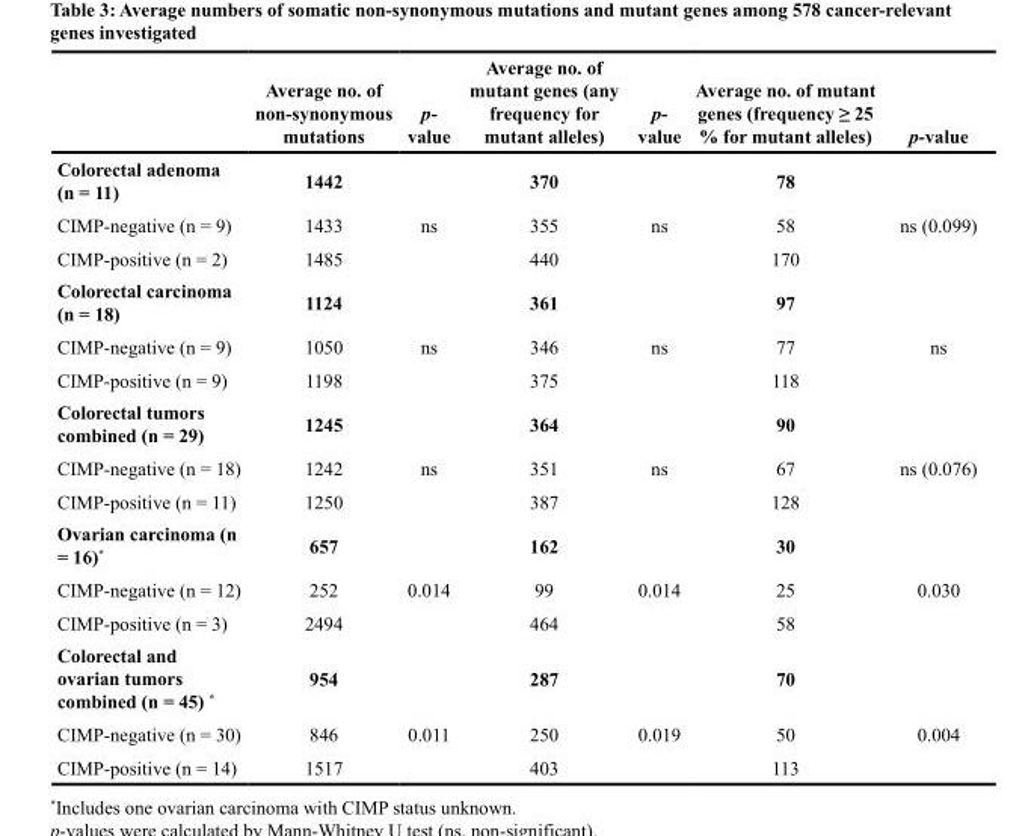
<table><thead><tr><td></td><td>Average no. of non-synonymous mutations</td><td>p- value</td><td>Average no. of mutant genes (any frequency for mutant alleles)</td><td>p- value</td><td>Average no. of mutant genes (frequency ≥ 25 % for mutant alleles)</td><td>p-value</td></tr></thead><tbody><tr><td>Colorectal adenoma (n = 11)</td><td>1442</td><td></td><td>370</td><td></td><td>78</td><td></td></tr><tr><td>CIMP-negative (n = 9)</td><td>1433</td><td>ns</td><td>355</td><td>ns</td><td>58</td><td>ns (0.099)</td></tr><tr><td>CIMP-positive (n = 2)</td><td>1485</td><td></td><td>440</td><td></td><td>170</td><td></td></tr><tr><td>Colorectal carcinoma (n = 18)</td><td>1124</td><td></td><td>361</td><td></td><td>97</td><td></td></tr><tr><td>CIMP-negative (n = 9)</td><td>1050</td><td>ns</td><td>346</td><td>ns</td><td>77</td><td>ns</td></tr><tr><td>CIMP-positive (n = 9)</td><td>1198</td><td></td><td>375</td><td></td><td>118</td><td></td></tr><tr><td>Colorectal tumors combined (n = 29)</td><td>1245</td><td></td><td>364</td><td></td><td>90</td><td></td></tr><tr><td>CIMP-negative (n = 18)</td><td>1242</td><td>ns</td><td>351</td><td>ns</td><td>67</td><td>ns (0.076)</td></tr><tr><td>CIMP-positive (n = 11)</td><td>1250</td><td></td><td>387</td><td></td><td>128</td><td></td></tr><tr><td>Ovarian carcinoma (n = 16)*</td><td>657</td><td></td><td>162</td><td></td><td>30</td><td></td></tr><tr><td>CIMP-negative (n = 12)</td><td>252</td><td>0.014</td><td>99</td><td>0.014</td><td>25</td><td>0.030</td></tr><tr><td>CIMP-positive (n = 3)</td><td>2494</td><td></td><td>464</td><td></td><td>58</td><td></td></tr><tr><td>Colorectal and ovarian tumors combined (n = 45) *</td><td>954</td><td></td><td>287</td><td></td><td>70</td><td></td></tr><tr><td>CIMP-negative (n = 30)</td><td>846</td><td>0.011</td><td>250</td><td>0.019</td><td>50</td><td>0.004</td></tr><tr><td>CIMP-positive (n = 14)</td><td>1517</td><td></td><td>403</td><td></td><td>113</td><td></td></tr></tbody></table>